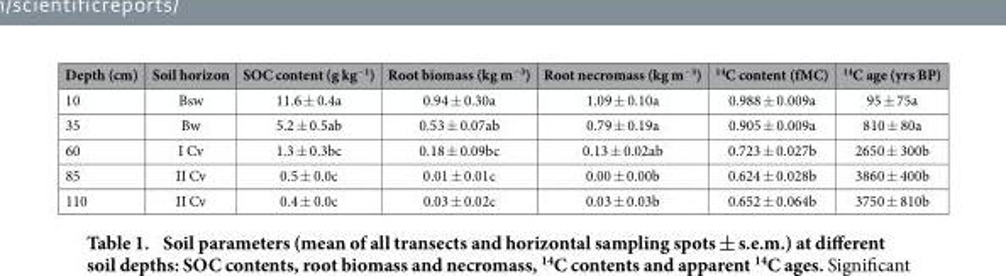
<table><thead><tr><td>Depth (cm)</td><td>Soil horizon</td><td>SOC content (g kg<sup>−1</sup>)</td><td>Root biomass (kg m<sup>−3</sup>)</td><td>Root necromass (kg m<sup>−3</sup>)</td><td><sup>14</sup>C content (fMC)</td><td><sup>14</sup>C age (yrs BP)</td></tr></thead><tbody><tr><td>10</td><td>Bsw</td><td>11.6 ± 0.4a</td><td>0.94 ± 0.30a</td><td>1.09 ± 0.10a</td><td>0.988 ± 0.009a</td><td>95 ± 75a</td></tr><tr><td>35</td><td>Bw</td><td>5.2 ± 0.5ab</td><td>0.53 ± 0.07ab</td><td>0.79 ± 0.19a</td><td>0.905 ± 0.009a</td><td>810 ± 80a</td></tr><tr><td>60</td><td>I Cv</td><td>1.3 ± 0.3bc</td><td>0.18 ± 0.09bc</td><td>0.13 ± 0.02ab</td><td>0.723 ± 0.027b</td><td>2650 ± 300b</td></tr><tr><td>85</td><td>II Cv</td><td>0.5 ± 0.0c</td><td>0.01 ± 0.01c</td><td>0.00 ± 0.00b</td><td>0.624 ± 0.028b</td><td>3860 ± 400b</td></tr><tr><td>110</td><td>II Cv</td><td>0.4 ± 0.0c</td><td>0.03 ± 0.02c</td><td>0.03 ± 0.03b</td><td>0.652 ± 0.064b</td><td>3750 ± 810b</td></tr></tbody></table>